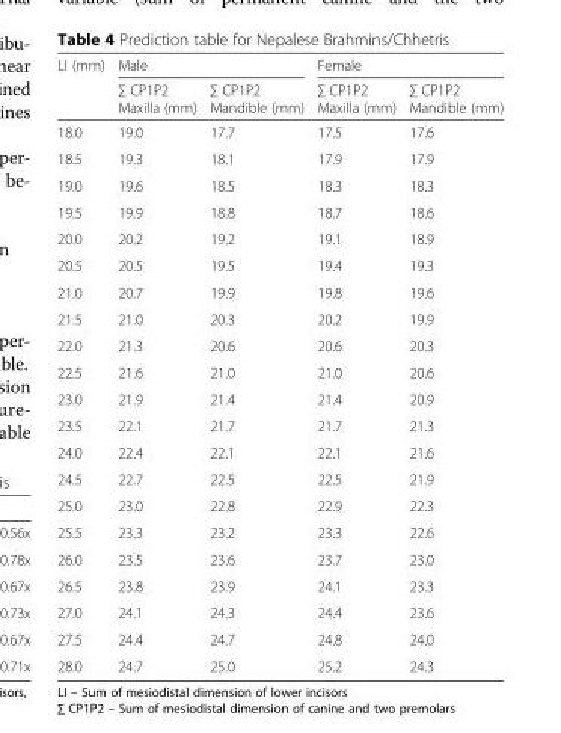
<table><thead><tr><td rowspan="2">LI (mm)</td><td colspan="2">Male</td><td colspan="2">Female</td></tr><tr><td>∑ CP1P2 Maxilla (mm)</td><td>∑ CP1P2 Mandible (mm)</td><td>∑ CP1P2 Maxilla (mm)</td><td>∑ CP1P2 Mandible (mm)</td></tr></thead><tbody><tr><td>18.0</td><td>19.0</td><td>17.7</td><td>17.5</td><td>17.6</td></tr><tr><td>18.5</td><td>19.3</td><td>18.1</td><td>17.9</td><td>17.9</td></tr><tr><td>19.0</td><td>19.6</td><td>18.5</td><td>18.3</td><td>18.3</td></tr><tr><td>19.5</td><td>19.9</td><td>18.8</td><td>18.7</td><td>18.6</td></tr><tr><td>20.0</td><td>20.2</td><td>19.2</td><td>19.1</td><td>18.9</td></tr><tr><td>20.5</td><td>20.5</td><td>19.5</td><td>19.4</td><td>19.3</td></tr><tr><td>21.0</td><td>20.7</td><td>19.9</td><td>19.8</td><td>19.6</td></tr><tr><td>21.5</td><td>21.0</td><td>20.3</td><td>20.2</td><td>19.9</td></tr><tr><td>22.0</td><td>21.3</td><td>20.6</td><td>20.6</td><td>20.3</td></tr><tr><td>22.5</td><td>21.6</td><td>21.0</td><td>21.0</td><td>20.6</td></tr><tr><td>23.0</td><td>21.9</td><td>21.4</td><td>21.4</td><td>20.9</td></tr><tr><td>23.5</td><td>22.1</td><td>21.7</td><td>21.7</td><td>21.3</td></tr><tr><td>24.0</td><td>22.4</td><td>22.1</td><td>22.1</td><td>21.6</td></tr><tr><td>24.5</td><td>22.7</td><td>22.5</td><td>22.5</td><td>21.9</td></tr><tr><td>25.0</td><td>23.0</td><td>22.8</td><td>22.9</td><td>22.3</td></tr><tr><td>25.5</td><td>23.3</td><td>23.2</td><td>23.3</td><td>22.6</td></tr><tr><td>26.0</td><td>23.5</td><td>23.6</td><td>23.7</td><td>23.0</td></tr><tr><td>26.5</td><td>23.8</td><td>23.9</td><td>24.1</td><td>23.3</td></tr><tr><td>27.0</td><td>24.1</td><td>24.3</td><td>24.4</td><td>23.6</td></tr><tr><td>27.5</td><td>24.4</td><td>24.7</td><td>24.8</td><td>24.0</td></tr><tr><td>28.0</td><td>24.7</td><td>25.0</td><td>25.2</td><td>24.3</td></tr></tbody></table>